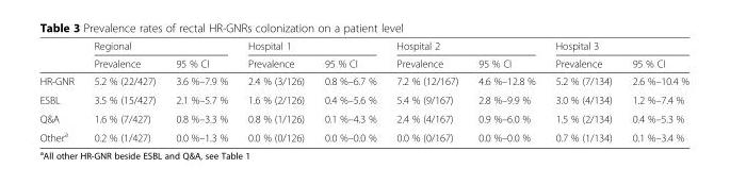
<table><thead><tr><td rowspan="2"></td><td colspan="2">Regional</td><td colspan="2">Hospital 1</td><td colspan="2">Hospital 2</td><td colspan="2">Hospital 3</td></tr><tr><td>Prevalence</td><td>95 % CI</td><td>Prevalence</td><td>95 % CI</td><td>Prevalence</td><td>95 % CI</td><td>Prevalence</td><td>95 % CI</td></tr></thead><tbody><tr><td>HR-GNR</td><td>5.2 % (22/427)</td><td>3.6 %–7.9 %</td><td>2.4 % (3/126)</td><td>0.8 %–6.7 %</td><td>7.2 % (12/167)</td><td>4.6 %–12.8 %</td><td>5.2 % (7/134)</td><td>2.6 %–10.4 %</td></tr><tr><td>ESBL</td><td>3.5 % (15/427)</td><td>2.1 %–5.7 %</td><td>1.6 % (2/126)</td><td>0.4 %–5.6 %</td><td>5.4 % (9/167)</td><td>2.8 %–9.9 %</td><td>3.0 % (4/134)</td><td>1.2 %–7.4 %</td></tr><tr><td>Q&amp;A</td><td>1.6 % (7/427)</td><td>0.8 %–3.3 %</td><td>0.8 % (1/126)</td><td>0.1 %–4.3 %</td><td>2.4 % (4/167)</td><td>0.9 %–6.0 %</td><td>1.5 % (2/134)</td><td>0.4 %–5.3 %</td></tr><tr><td>Other<sup>a</sup></td><td>0.2 % (1/427)</td><td>0.0 %–1.3 %</td><td>0.0 % (0/126)</td><td>0.0 %–0.0 %</td><td>0.0 % (0/167)</td><td>0.0 %–0.0 %</td><td>0.7 % (1/134)</td><td>0.1 %–3.4 %</td></tr></tbody></table>